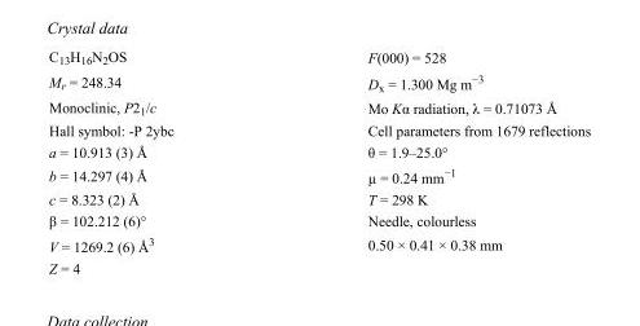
<table><tbody><tr><td>C<sub>13</sub>H<sub>16</sub>N<sub>2</sub>OS</td><td>F(000) = 528</td></tr><tr><td>M<sub>r</sub> = 248.34</td><td>D<sub>x</sub> = 1.300 Mg m<sup>−3</sup></td></tr><tr><td>Monoclinic, P2<sub>1</sub>/c</td><td>Mo Kα radiation, λ = 0.71073 Å</td></tr><tr><td>Hall symbol: -P 2ybc</td><td>Cell parameters from 1679 reflections</td></tr><tr><td>a = 10.913 (3) Å</td><td>θ = 1.9–25.0°</td></tr><tr><td>b = 14.297 (4) Å</td><td>µ = 0.24 mm<sup>−1</sup></td></tr><tr><td>c = 8.323 (2) Å</td><td>T = 298 K</td></tr><tr><td>β = 102.212 (6)°</td><td>Needle, colourless</td></tr><tr><td>V = 1269.2 (6) Å<sup>3</sup></td><td>0.50 × 0.41 × 0.38 mm</td></tr><tr><td>Z = 4</td><td></td></tr></tbody></table>